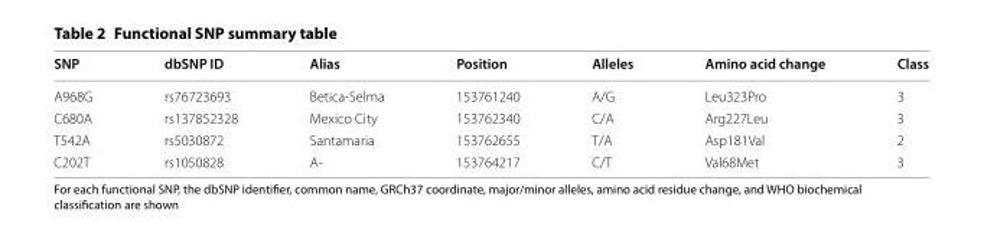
<table><thead><tr><td>SNP</td><td>dbSNP ID</td><td>Alias</td><td>Position</td><td>Alleles</td><td>Amino acid change</td><td>Class</td></tr></thead><tbody><tr><td>A968G</td><td>rs76723693</td><td>Betica‑Selma</td><td>153761240</td><td>A/G</td><td>Leu323Pro</td><td>3</td></tr><tr><td>C680A</td><td>rs137852328</td><td>Mexico City</td><td>153762340</td><td>C/A</td><td>Arg227Leu</td><td>3</td></tr><tr><td>T542A</td><td>rs5030872</td><td>Santamaria</td><td>153762655</td><td>T/A</td><td>Asp181Val</td><td>2</td></tr><tr><td>C202T</td><td>rs1050828</td><td>A‑</td><td>153764217</td><td>C/T</td><td>Val68Met</td><td>3</td></tr></tbody></table>